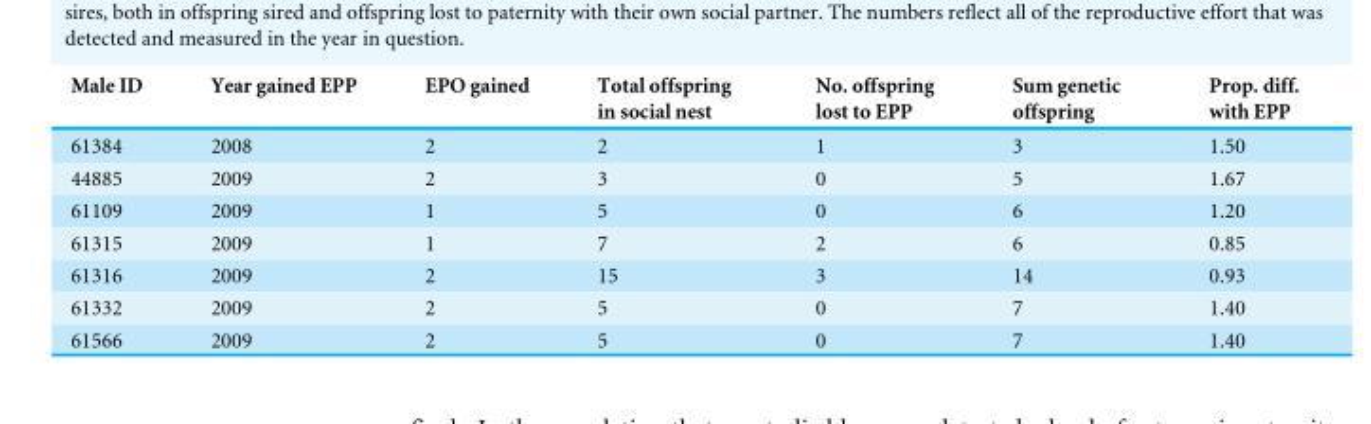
<table><thead><tr><td>Male ID</td><td>Year gained EPP</td><td>EPO gained</td><td>Total offspring in social nest</td><td>No. offspring lost to EPP</td><td>Sum genetic offspring</td><td>Prop. diff. with EPP</td></tr></thead><tbody><tr><td>61384</td><td>2008</td><td>2</td><td>2</td><td>1</td><td>3</td><td>1.50</td></tr><tr><td>44885</td><td>2009</td><td>2</td><td>3</td><td>0</td><td>5</td><td>1.67</td></tr><tr><td>61109</td><td>2009</td><td>1</td><td>5</td><td>0</td><td>6</td><td>1.20</td></tr><tr><td>61315</td><td>2009</td><td>1</td><td>7</td><td>2</td><td>6</td><td>0.85</td></tr><tr><td>61316</td><td>2009</td><td>2</td><td>15</td><td>3</td><td>14</td><td>0.93</td></tr><tr><td>61332</td><td>2009</td><td>2</td><td>5</td><td>0</td><td>7</td><td>1.40</td></tr><tr><td>61566</td><td>2009</td><td>2</td><td>5</td><td>0</td><td>7</td><td>1.40</td></tr></tbody></table>